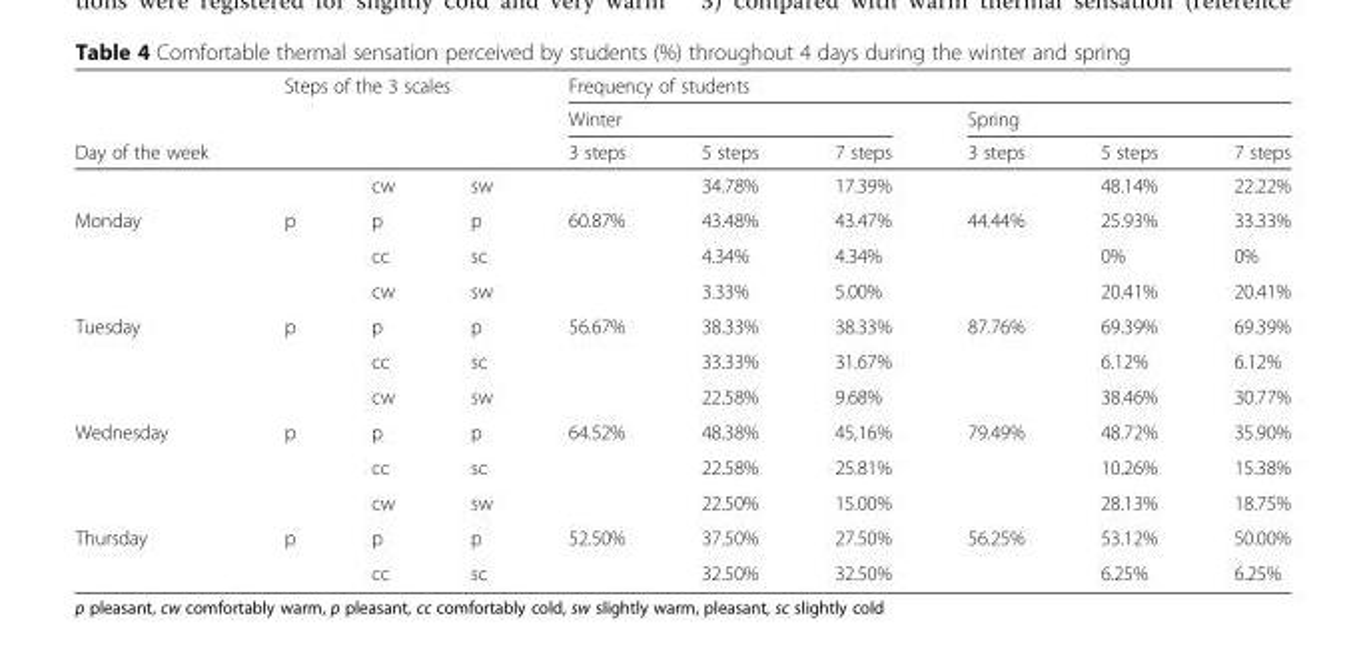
<table><thead><tr><td rowspan="4">Day of the week</td><td rowspan="3" colspan="3">Steps of the 3 scales</td><td colspan="6">Frequency of students</td></tr><tr><td colspan="3">Winter</td><td colspan="3">Spring</td></tr><tr><td rowspan="2">3 steps</td><td rowspan="2">5 steps 34.78%</td><td rowspan="2">7 steps 17.39%</td><td rowspan="2">3 steps</td><td rowspan="2">5 steps 48.14%</td><td rowspan="2">7 steps 22.22%</td></tr><tr><td></td><td>cw</td><td>sw</td></tr></thead><tbody><tr><td rowspan="3">Monday</td><td>p</td><td>p</td><td>p</td><td>60.87%</td><td>43.48%</td><td>43.47%</td><td>44.44%</td><td>25.93%</td><td>33.33%</td></tr><tr><td></td><td>cc</td><td>sc</td><td></td><td>4.34%</td><td>4.34%</td><td></td><td>0%</td><td>0%</td></tr><tr><td></td><td>cw</td><td>sw</td><td></td><td>3.33%</td><td>5.00%</td><td></td><td>20.41%</td><td>20.41%</td></tr><tr><td rowspan="3">Tuesday</td><td>p</td><td>p</td><td>p</td><td>56.67%</td><td>38.33%</td><td>38.33%</td><td>87.76%</td><td>69.39%</td><td>69.39%</td></tr><tr><td></td><td>cc</td><td>sc</td><td></td><td>33.33%</td><td>31.67%</td><td></td><td>6.12%</td><td>6.12%</td></tr><tr><td></td><td>cw</td><td>sw</td><td></td><td>22.58%</td><td>9.68%</td><td></td><td>38.46%</td><td>30.77%</td></tr><tr><td rowspan="3">Wednesday</td><td>p</td><td>p</td><td>p</td><td>64.52%</td><td>48.38%</td><td>45,16%</td><td>79.49%</td><td>48.72%</td><td>35.90%</td></tr><tr><td></td><td>cc</td><td>sc</td><td></td><td>22.58%</td><td>25.81%</td><td></td><td>10.26%</td><td>15.38%</td></tr><tr><td></td><td>cw</td><td>sw</td><td></td><td>22.50%</td><td>15.00%</td><td></td><td>28.13%</td><td>18.75%</td></tr><tr><td rowspan="2">Thursday</td><td>p</td><td>p</td><td>p</td><td>52.50%</td><td>37.50%</td><td>27.50%</td><td>56.25%</td><td>53.12%</td><td>50.00%</td></tr><tr><td></td><td>cc</td><td>sc</td><td></td><td>32.50%</td><td>32.50%</td><td></td><td>6.25%</td><td>6.25%</td></tr></tbody></table>